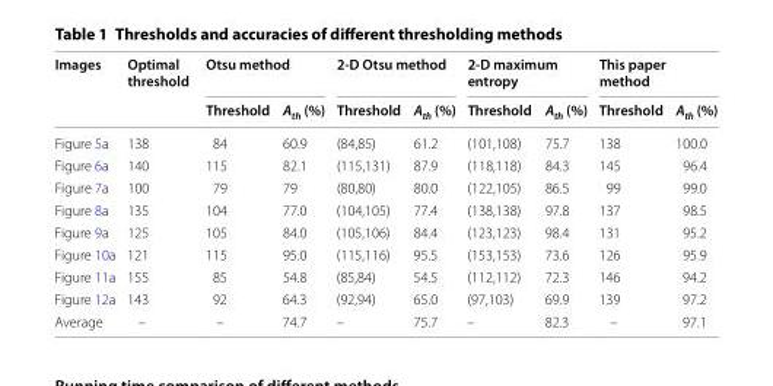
<table><thead><tr><td rowspan="2">Images</td><td rowspan="2">Optimal threshold</td><td colspan="2">Otsu method</td><td colspan="2">2‑D Otsu method</td><td colspan="2">2‑D maximum entropy</td><td colspan="2">This paper method</td></tr><tr><td>Threshold</td><td>A<sub>th</sub> (%)</td><td>Threshold</td><td>A<sub>th</sub> (%)</td><td>Threshold</td><td>A<sub>th</sub> (%)</td><td>Threshold</td><td>A<sub>th</sub> (%)</td></tr></thead><tbody><tr><td>Figure 5a</td><td>138</td><td>84</td><td>60.9</td><td>(84,85)</td><td>61.2</td><td>(101,108)</td><td>75.7</td><td>138</td><td>100.0</td></tr><tr><td>Figure 6a</td><td>140</td><td>115</td><td>82.1</td><td>(115,131)</td><td>87.9</td><td>(118,118)</td><td>84.3</td><td>145</td><td>96.4</td></tr><tr><td>Figure 7a</td><td>100</td><td>79</td><td>79</td><td>(80,80)</td><td>80.0</td><td>(122,105)</td><td>86.5</td><td>99</td><td>99.0</td></tr><tr><td>Figure 8a</td><td>135</td><td>104</td><td>77.0</td><td>(104,105)</td><td>77.4</td><td>(138,138)</td><td>97.8</td><td>137</td><td>98.5</td></tr><tr><td>Figure 9a</td><td>125</td><td>105</td><td>84.0</td><td>(105,106)</td><td>84.4</td><td>(123,123)</td><td>98.4</td><td>131</td><td>95.2</td></tr><tr><td>Figure 10a</td><td>121</td><td>115</td><td>95.0</td><td>(115,116)</td><td>95.5</td><td>(153,153)</td><td>73.6</td><td>126</td><td>95.9</td></tr><tr><td>Figure 11a</td><td>155</td><td>85</td><td>54.8</td><td>(85,84)</td><td>54.5</td><td>(112,112)</td><td>72.3</td><td>146</td><td>94.2</td></tr><tr><td>Figure 12a</td><td>143</td><td>92</td><td>64.3</td><td>(92,94)</td><td>65.0</td><td>(97,103)</td><td>69.9</td><td>139</td><td>97.2</td></tr><tr><td>Average</td><td>–</td><td>–</td><td>74.7</td><td>–</td><td>75.7</td><td>–</td><td>82.3</td><td>–</td><td>97.1</td></tr></tbody></table>